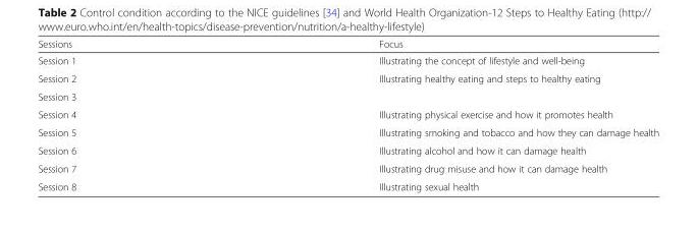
<table><thead><tr><td>Sessions</td><td>Focus</td></tr></thead><tbody><tr><td>Session 1</td><td>Illustrating the concept of lifestyle and well-being</td></tr><tr><td>Session 2</td><td rowspan="2">Illustrating healthy eating and steps to healthy eating</td></tr><tr><td>Session 3</td></tr><tr><td>Session 4</td><td>Illustrating physical exercise and how it promotes health</td></tr><tr><td>Session 5</td><td>Illustrating smoking and tobacco and how they can damage health</td></tr><tr><td>Session 6</td><td>Illustrating alcohol and how it can damage health</td></tr><tr><td>Session 7</td><td>Illustrating drug misuse and how it can damage health</td></tr><tr><td>Session 8</td><td>Illustrating sexual health</td></tr></tbody></table>